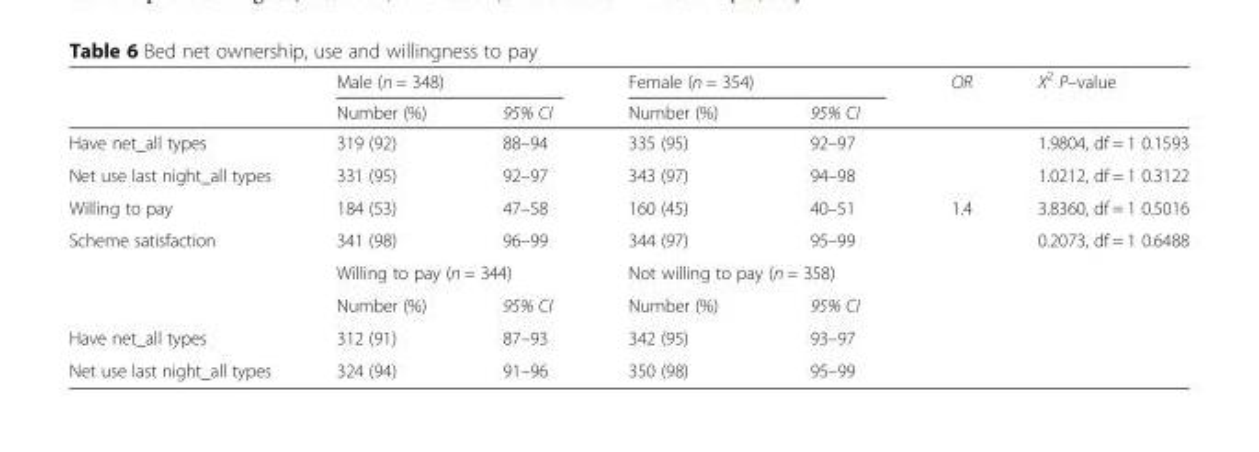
<table><thead><tr><td rowspan="2"></td><td colspan="2">Male (n = 348)</td><td colspan="2">Female (n = 354)</td><td rowspan="2">OR</td><td rowspan="2">X<sup>2</sup> P–value</td></tr><tr><td>Number (%)</td><td>95% CI</td><td>Number (%)</td><td>95% CI</td></tr></thead><tbody><tr><td>Have net_all types</td><td>319 (92)</td><td>88–94</td><td>335 (95)</td><td>92–97</td><td></td><td>1.9804, df = 1 0.1593</td></tr><tr><td>Net use last night_all types</td><td>331 (95)</td><td>92–97</td><td>343 (97)</td><td>94–98</td><td></td><td>1.0212, df = 1 0.3122</td></tr><tr><td>Willing to pay</td><td>184 (53)</td><td>47–58</td><td>160 (45)</td><td>40–51</td><td>1.4</td><td>3.8360, df = 1 0.5016</td></tr><tr><td rowspan="3">Scheme satisfaction</td><td>341 (98)</td><td>96–99</td><td>344 (97)</td><td>95–99</td><td></td><td>0.2073, df = 1 0.6488</td></tr><tr><td colspan="2">Willing to pay (n = 344)</td><td colspan="2">Not willing to pay (n = 358)</td><td></td><td></td></tr><tr><td>Number (%)</td><td>95% CI</td><td>Number (%)</td><td>95% CI</td><td></td><td></td></tr><tr><td>Have net_all types</td><td>312 (91)</td><td>87–93</td><td>342 (95)</td><td>93–97</td><td></td><td></td></tr><tr><td>Net use last night_all types</td><td>324 (94)</td><td>91–96</td><td>350 (98)</td><td>95–99</td><td></td><td></td></tr></tbody></table>